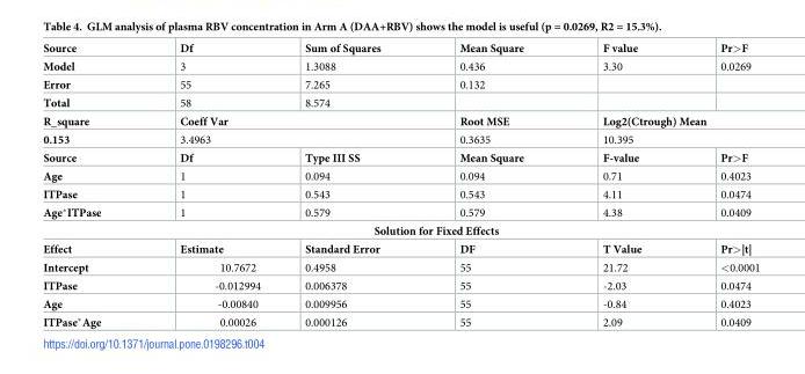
<table><tbody><tr><td>Source</td><td>Df</td><td>Sum of Squares</td><td>Mean Square</td><td>F value</td><td>Pr&gt;F</td></tr><tr><td>Model</td><td>3</td><td>1.3088</td><td>0.436</td><td>3.30</td><td>0.0269</td></tr><tr><td>Error</td><td>55</td><td>7.265</td><td>0.132</td><td></td><td></td></tr><tr><td>Total</td><td>58</td><td>8.574</td><td></td><td></td><td></td></tr><tr><td>R_square</td><td colspan="2">Coeff Var</td><td>Root MSE</td><td colspan="2">Log2(Ctrough) Mean</td></tr><tr><td>0.153</td><td colspan="2">3.4963</td><td>0.3635</td><td colspan="2">10.395</td></tr><tr><td>Source</td><td>Df</td><td>Type III SS</td><td>Mean Square</td><td>F-value</td><td>Pr&gt;F</td></tr><tr><td>Age</td><td>1</td><td>0.094</td><td>0.094</td><td>0.71</td><td>0.4023</td></tr><tr><td>ITPase</td><td>1</td><td>0.543</td><td>0.543</td><td>4.11</td><td>0.0474</td></tr><tr><td>Age*ITPase</td><td>1</td><td>0.579</td><td>0.579</td><td>4.38</td><td>0.0409</td></tr><tr><td colspan="6">Solution for Fixed Effects</td></tr><tr><td>Effect</td><td>Estimate</td><td>Standard Error</td><td>DF</td><td>T Value</td><td>Pr&gt;|t|</td></tr><tr><td>Intercept</td><td>10.7672</td><td>0.4958</td><td>55</td><td>21.72</td><td>&lt;0.0001</td></tr><tr><td>ITPase</td><td>-0.012994</td><td>0.006378</td><td>55</td><td>-2.03</td><td>0.0474</td></tr><tr><td>Age</td><td>-0.00840</td><td>0.009956</td><td>55</td><td>-0.84</td><td>0.4023</td></tr><tr><td>ITPase*Age</td><td>0.00026</td><td>0.000126</td><td>55</td><td>2.09</td><td>0.0409</td></tr></tbody></table>